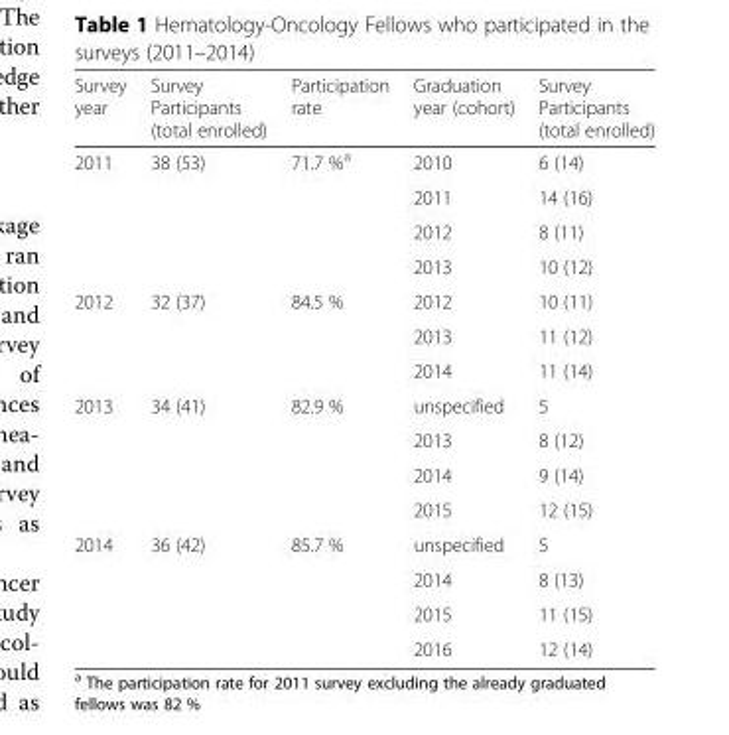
<table><thead><tr><td>Survey year</td><td>Survey Participants (total enrolled)</td><td>Participation rate</td><td>Graduation year (cohort)</td><td>Survey Participants (total enrolled)</td></tr></thead><tbody><tr><td rowspan="4">2011</td><td rowspan="4">38 (53)</td><td rowspan="4">71.7 %<sup>a</sup></td><td>2010</td><td>6 (14)</td></tr><tr><td>2011</td><td>14 (16)</td></tr><tr><td>2012</td><td>8 (11)</td></tr><tr><td>2013</td><td>10 (12)</td></tr><tr><td rowspan="3">2012</td><td rowspan="3">32 (37)</td><td rowspan="3">84.5 %</td><td>2012</td><td>10 (11)</td></tr><tr><td>2013</td><td>11 (12)</td></tr><tr><td>2014</td><td>11 (14)</td></tr><tr><td rowspan="4">2013</td><td rowspan="4">34 (41)</td><td rowspan="4">82.9 %</td><td>unspecified</td><td>5</td></tr><tr><td>2013</td><td>8 (12)</td></tr><tr><td>2014</td><td>9 (14)</td></tr><tr><td>2015</td><td>12 (15)</td></tr><tr><td rowspan="4">2014</td><td rowspan="4">36 (42)</td><td rowspan="4">85.7 %</td><td>unspecified</td><td>5</td></tr><tr><td>2014</td><td>8 (13)</td></tr><tr><td>2015</td><td>11 (15)</td></tr><tr><td>2016</td><td>12 (14)</td></tr></tbody></table>